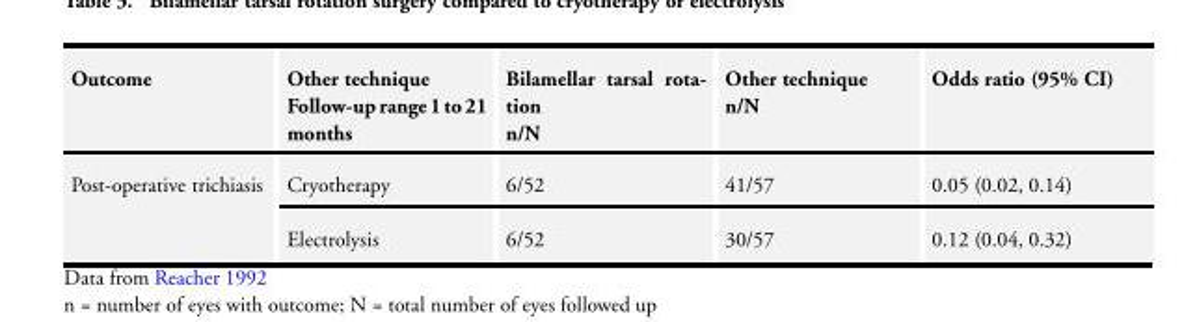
<table><tbody><tr><td>Outcome</td><td>Other technique Follow-up range1to 21 months</td><td>Bilamellar tarsal rota- tion n/N</td><td>Other technique n/N</td><td>Odds ratio (95% CI)</td></tr><tr><td rowspan="2">Post-operative trichiasis</td><td>Cryotherapy</td><td>6/52</td><td>41/57</td><td>0.05 (0.02, 0.14)</td></tr><tr><td>Electrolysis</td><td>6/52</td><td>30/57</td><td>0.12 (0.04, 0.32)</td></tr></tbody></table>